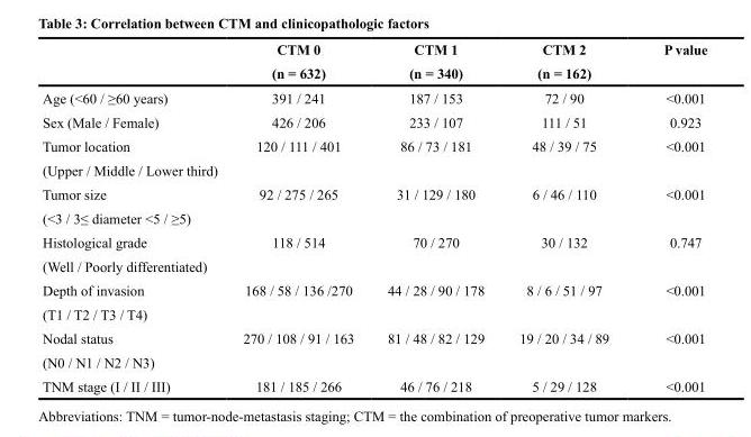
<table><thead><tr><td rowspan="2"></td><td rowspan="2">CTM 0 (n = 632)</td><td rowspan="2">CTM 1 (n = 340)</td><td rowspan="2">CTM 2 (n = 162)</td><td rowspan="2">P value</td></tr><tr></tr></thead><tbody><tr><td>Age (&lt;60 / ≥60 years)</td><td>391 / 241</td><td>187 / 153</td><td>72 / 90</td><td>&lt;0.001</td></tr><tr><td>Sex (Male / Female)</td><td>426 / 206</td><td>233 / 107</td><td>111 / 51</td><td>0.923</td></tr><tr><td>Tumor location</td><td>120 / 111 / 401</td><td>86 / 73 / 181</td><td>48 / 39 / 75</td><td>&lt;0.001</td></tr><tr><td colspan="5">(Upper / Middle / Lower third)</td></tr><tr><td>Tumor size</td><td>92 / 275 / 265</td><td>31 / 129 / 180</td><td>6 / 46 / 110</td><td>&lt;0.001</td></tr><tr><td colspan="5">(&lt;3 / 3≤ diameter &lt;5 / ≥5)</td></tr><tr><td>Histological grade</td><td>118 / 514</td><td>70 / 270</td><td>30 / 132</td><td>0.747</td></tr><tr><td colspan="5">(Well / Poorly differentiated)</td></tr><tr><td>Depth of invasion</td><td>168 / 58 / 136 /270</td><td>44 / 28 / 90 / 178</td><td>8 / 6 / 51 / 97</td><td>&lt;0.001</td></tr><tr><td colspan="5">(T1 / T2 / T3 / T4)</td></tr><tr><td>Nodal status</td><td>270 / 108 / 91 / 163</td><td>81 / 48 / 82 / 129</td><td>19 / 20 / 34 / 89</td><td>&lt;0.001</td></tr><tr><td colspan="5">(N0 / N1 / N2 / N3)</td></tr><tr><td>TNM stage (I / II / III)</td><td>181 / 185 / 266</td><td>46 / 76 / 218</td><td>5 / 29 / 128</td><td>&lt;0.001</td></tr></tbody></table>